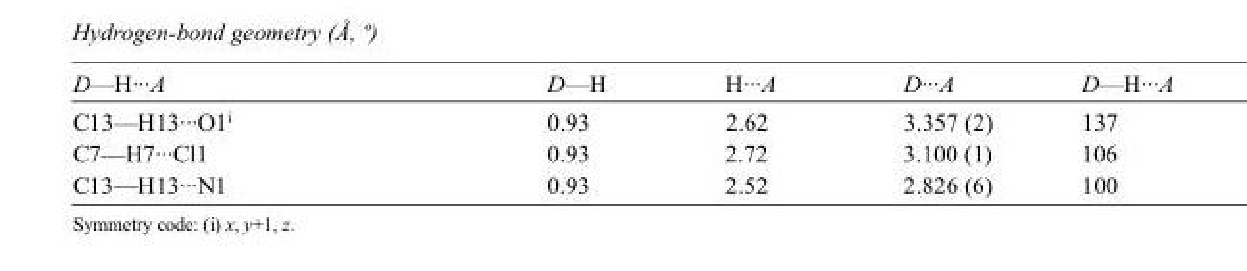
<table><tbody><tr><td>D—H···A</td><td>D—H</td><td>H···A</td><td>D···A</td><td>D—H···A</td></tr><tr><td>C13—H13···O1<sup>i</sup></td><td>0.93</td><td>2.62</td><td>3.357 (2)</td><td>137</td></tr><tr><td>C7—H7···Cl1</td><td>0.93</td><td>2.72</td><td>3.100 (1)</td><td>106</td></tr><tr><td>C13—H13···N1</td><td>0.93</td><td>2.52</td><td>2.826 (6)</td><td>100</td></tr></tbody></table>